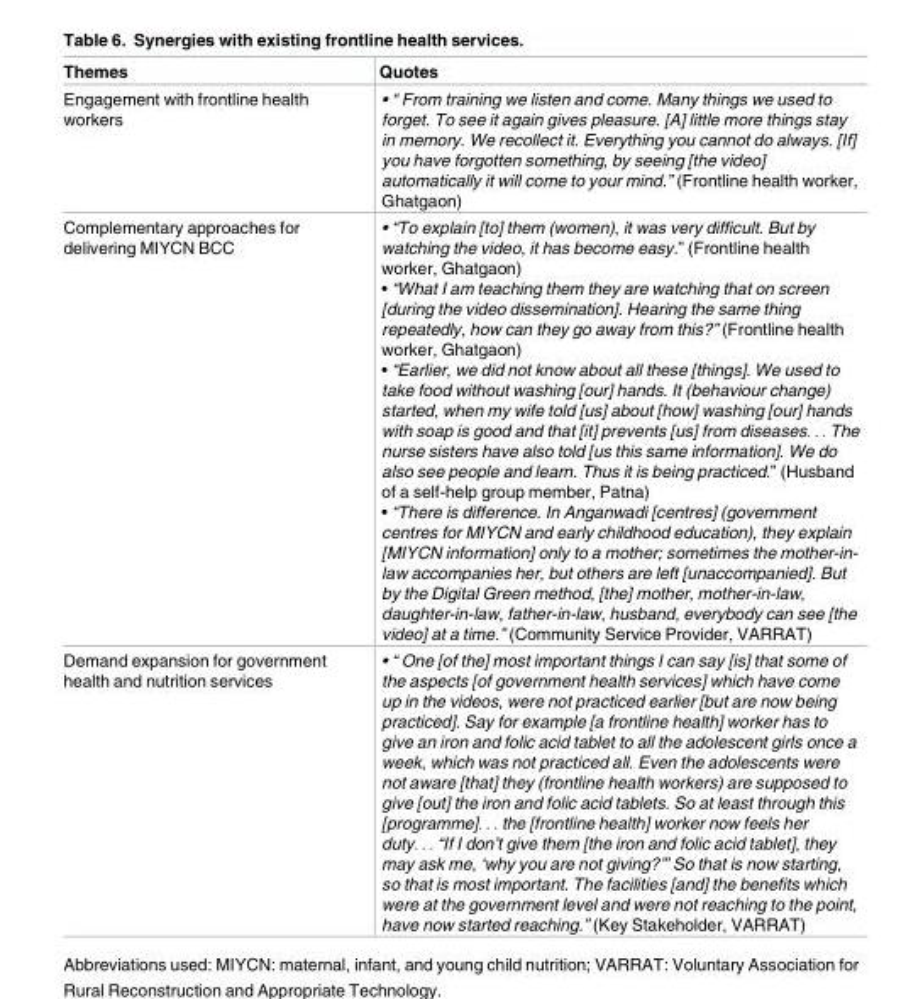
<table><thead><tr><td>Themes</td><td>Quotes</td></tr></thead><tbody><tr><td>Engagement with frontline health workers</td><td>• “ From training we listen and come. Many things we used to forget. To see it again gives pleasure. [A] little more things stay in memory. We recollect it. Everything you cannot do always. [If] you have forgotten something, by seeing [the video] automatically it will come to your mind.” (Frontline health worker, Ghatgaon)</td></tr><tr><td>Complementary approaches for delivering MIYCN BCC</td><td>• “To explain [to] them (women), it was very difficult. But by watching the video, it has become easy.” (Frontline health worker, Ghatgaon) • “What I am teaching them they are watching that on screen [during the video dissemination]. Hearing the same thing repeatedly, how can they go away from this?” (Frontline health worker, Ghatgaon) • “Earlier, we did not know about all these [things]. We used to take food without washing [our] hands. It (behaviour change) started, when my wife told [us] about [how] washing [our] hands with soap is good and that [it] prevents [us] from diseases. . . The nurse sisters have also told [us this same information]. We do also see people and learn. Thus it is being practiced.” (Husband of a self-help group member, Patna) • “There is difference. In Anganwadi [centres] (government centres for MIYCN and early childhood education), they explain [MIYCN information] only to a mother; sometimes the mother-in- law accompanies her, but others are left [unaccompanied]. But by the Digital Green method, [the] mother, mother-in-law, daughter-in-law, father-in-law, husband, everybody can see [the video] at a time.” (Community Service Provider, VARRAT)</td></tr><tr><td>Demand expansion for government health and nutrition services</td><td>• “ One [of the] most important things I can say [is] that some of the aspects [of government health services] which have come up in the videos, were not practiced earlier [but are now being practiced]. Say for example [a frontline health] worker has to give an iron and folic acid tablet to all the adolescent girls once a week, which was not practiced all. Even the adolescents were not aware [that] they (frontline health workers) are supposed to give [out] the iron and folic acid tablets. So at least through this [programme]. . . the [frontline health] worker now feels her duty. . . “If I don’t give them [the iron and folic acid tablet], they may ask me, ‘why you are not giving?’” So that is now starting, so that is most important. The facilities [and] the benefits which were at the government level and were not reaching to the point, have now started reaching.” (Key Stakeholder, VARRAT)</td></tr></tbody></table>